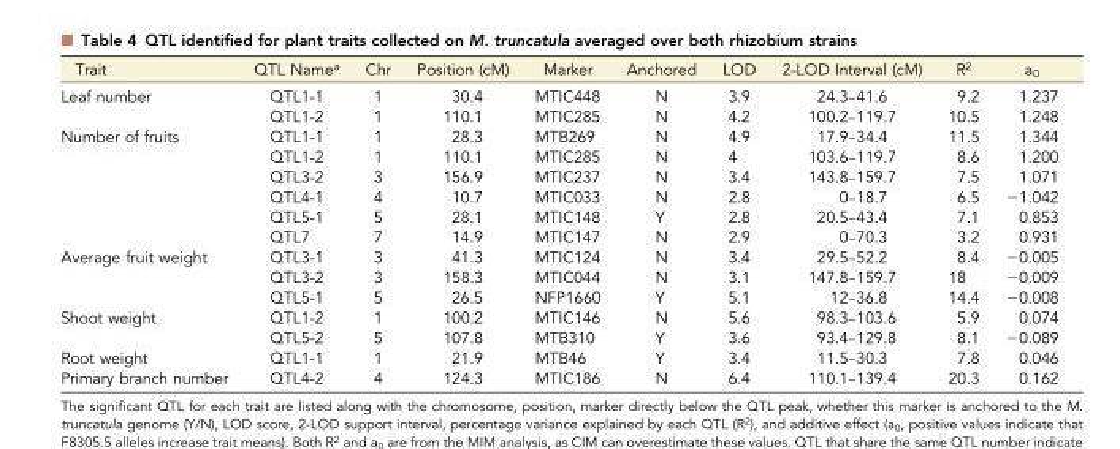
<table><thead><tr><td>Trait</td><td>QTL Name<sup>a</sup></td><td>Chr</td><td>Position (cM)</td><td>Marker</td><td>Anchored</td><td>LOD</td><td>2-LOD Interval (cM)</td><td>R<sup>2</sup></td><td>a<sub>0</sub></td></tr></thead><tbody><tr><td rowspan="2">Leaf number</td><td>QTL1-1</td><td>1</td><td>30.4</td><td>MTIC448</td><td>N</td><td>3.9</td><td>24.3–41.6</td><td>9.2</td><td>1.237</td></tr><tr><td>QTL1-2</td><td>1</td><td>110.1</td><td>MTIC285</td><td>N</td><td>4.2</td><td>100.2–119.7</td><td>10.5</td><td>1.248</td></tr><tr><td rowspan="6">Number of fruits</td><td>QTL1-1</td><td>1</td><td>28.3</td><td>MTB269</td><td>N</td><td>4.9</td><td>17.9–34.4</td><td>11.5</td><td>1.344</td></tr><tr><td>QTL1-2</td><td>1</td><td>110.1</td><td>MTIC285</td><td>N</td><td>4</td><td>103.6–119.7</td><td>8.6</td><td>1.200</td></tr><tr><td>QTL3-2</td><td>3</td><td>156.9</td><td>MTIC237</td><td>N</td><td>3.4</td><td>143.8–159.7</td><td>7.5</td><td>1.071</td></tr><tr><td>QTL4-1</td><td>4</td><td>10.7</td><td>MTIC033</td><td>N</td><td>2.8</td><td>0–18.7</td><td>6.5</td><td>−1.042</td></tr><tr><td>QTL5-1</td><td>5</td><td>28.1</td><td>MTIC148</td><td>Y</td><td>2.8</td><td>20.5–43.4</td><td>7.1</td><td>0.853</td></tr><tr><td>QTL7</td><td>7</td><td>14.9</td><td>MTIC147</td><td>N</td><td>2.9</td><td>0–70.3</td><td>3.2</td><td>0.931</td></tr><tr><td rowspan="3">Average fruit weight</td><td>QTL3-1</td><td>3</td><td>41.3</td><td>MTIC124</td><td>N</td><td>3.4</td><td>29.5–52.2</td><td>8.4</td><td>−0.005</td></tr><tr><td>QTL3-2</td><td>3</td><td>158.3</td><td>MTIC044</td><td>N</td><td>3.1</td><td>147.8–159.7</td><td>18</td><td>−0.009</td></tr><tr><td>QTL5-1</td><td>5</td><td>26.5</td><td>NFP1660</td><td>Y</td><td>5.1</td><td>12–36.8</td><td>14.4</td><td>−0.008</td></tr><tr><td rowspan="2">Shoot weight</td><td>QTL1-2</td><td>1</td><td>100.2</td><td>MTIC146</td><td>N</td><td>5.6</td><td>98.3–103.6</td><td>5.9</td><td>0.074</td></tr><tr><td>QTL5-2</td><td>5</td><td>107.8</td><td>MTB310</td><td>Y</td><td>3.6</td><td>93.4–129.8</td><td>8.1</td><td>−0.089</td></tr><tr><td>Root weight</td><td>QTL1-1</td><td>1</td><td>21.9</td><td>MTB46</td><td>Y</td><td>3.4</td><td>11.5–30.3</td><td>7.8</td><td>0.046</td></tr><tr><td>Primary branch number</td><td>QTL4-2</td><td>4</td><td>124.3</td><td>MTIC186</td><td>N</td><td>6.4</td><td>110.1–139.4</td><td>20.3</td><td>0.162</td></tr></tbody></table>